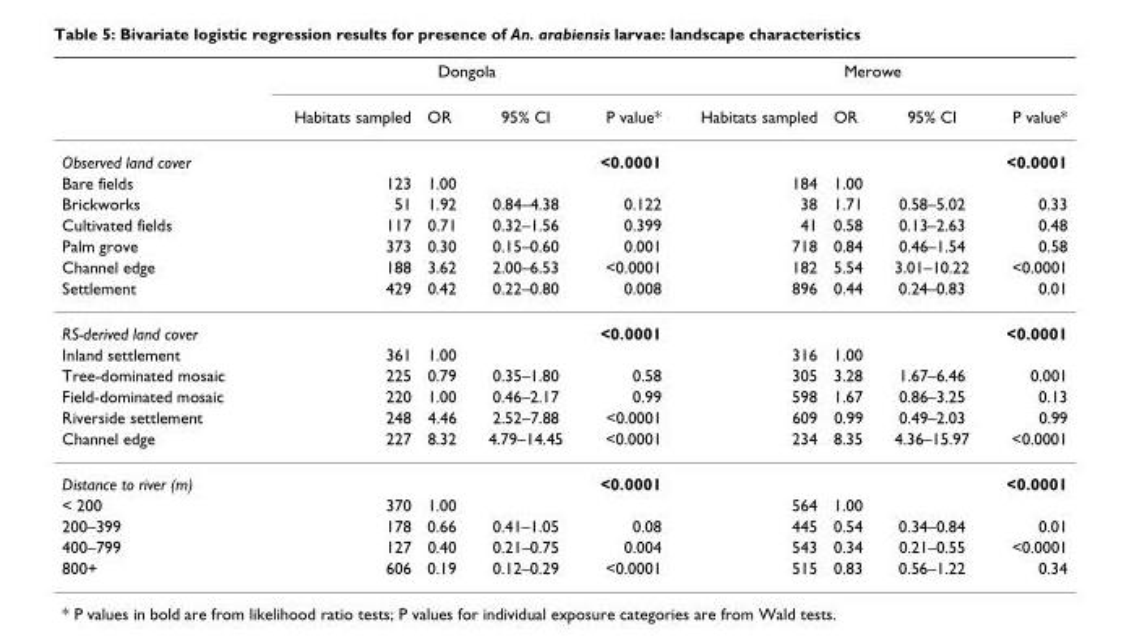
<table><thead><tr><td rowspan="2"></td><td colspan="4">Dongola</td><td colspan="4">Merowe</td></tr><tr><td>Habitats sampled</td><td>OR</td><td>95% CI</td><td>P value*</td><td>Habitats sampled</td><td>OR</td><td>95% CI</td><td>P value*</td></tr></thead><tbody><tr><td>Observed land cover</td><td></td><td></td><td></td><td>&lt;0.0001</td><td></td><td></td><td></td><td>&lt;0.0001</td></tr><tr><td>Bare fields</td><td>123</td><td>1.00</td><td></td><td></td><td>184</td><td>1.00</td><td></td><td></td></tr><tr><td>Brickworks</td><td>51</td><td>1.92</td><td>0.84–4.38</td><td>0.122</td><td>38</td><td>1.71</td><td>0.58–5.02</td><td>0.33</td></tr><tr><td>Cultivated fields</td><td>117</td><td>0.71</td><td>0.32–1.56</td><td>0.399</td><td>41</td><td>0.58</td><td>0.13–2.63</td><td>0.48</td></tr><tr><td>Palm grove</td><td>373</td><td>0.30</td><td>0.15–0.60</td><td>0.001</td><td>718</td><td>0.84</td><td>0.46–1.54</td><td>0.58</td></tr><tr><td>Channel edge</td><td>188</td><td>3.62</td><td>2.00–6.53</td><td>&lt;0.0001</td><td>182</td><td>5.54</td><td>3.01–10.22</td><td>&lt;0.0001</td></tr><tr><td>Settlement</td><td>429</td><td>0.42</td><td>0.22–0.80</td><td>0.008</td><td>896</td><td>0.44</td><td>0.24–0.83</td><td>0.01</td></tr><tr><td>RS-derived land cover</td><td></td><td></td><td></td><td>&lt;0.0001</td><td></td><td></td><td></td><td>&lt;0.0001</td></tr><tr><td>Inland settlement</td><td>361</td><td>1.00</td><td></td><td></td><td>316</td><td>1.00</td><td></td><td></td></tr><tr><td>Tree-dominated mosaic</td><td>225</td><td>0.79</td><td>0.35–1.80</td><td>0.58</td><td>305</td><td>3.28</td><td>1.67–6.46</td><td>0.001</td></tr><tr><td>Field-dominated mosaic</td><td>220</td><td>1.00</td><td>0.46–2.17</td><td>0.99</td><td>598</td><td>1.67</td><td>0.86–3.25</td><td>0.13</td></tr><tr><td>Riverside settlement</td><td>248</td><td>4.46</td><td>2.52–7.88</td><td>&lt;0.0001</td><td>609</td><td>0.99</td><td>0.49–2.03</td><td>0.99</td></tr><tr><td>Channel edge</td><td>227</td><td>8.32</td><td>4.79–14.45</td><td>&lt;0.0001</td><td>234</td><td>8.35</td><td>4.36–15.97</td><td>&lt;0.0001</td></tr><tr><td>Distance to river (m)</td><td></td><td></td><td></td><td>&lt;0.0001</td><td></td><td></td><td></td><td>&lt;0.0001</td></tr><tr><td>&lt; 200</td><td>370</td><td>1.00</td><td></td><td></td><td>564</td><td>1.00</td><td></td><td></td></tr><tr><td>200–399</td><td>178</td><td>0.66</td><td>0.41–1.05</td><td>0.08</td><td>445</td><td>0.54</td><td>0.34–0.84</td><td>0.01</td></tr><tr><td>400–799</td><td>127</td><td>0.40</td><td>0.21–0.75</td><td>0.004</td><td>543</td><td>0.34</td><td>0.21–0.55</td><td>&lt;0.0001</td></tr><tr><td>800+</td><td>606</td><td>0.19</td><td>0.12–0.29</td><td>&lt;0.0001</td><td>515</td><td>0.83</td><td>0.56–1.22</td><td>0.34</td></tr></tbody></table>